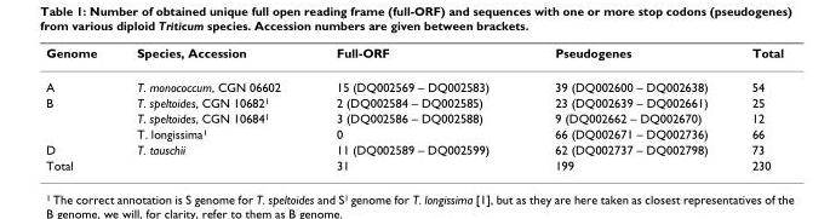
<table><thead><tr><td>Genome</td><td>Species, Accession</td><td>Full-ORF</td><td>Pseudogenes</td><td>Total</td></tr></thead><tbody><tr><td>A</td><td>T. monococcum, CGN 06602</td><td>15 (DQ002569 – DQ002583)</td><td>39 (DQ002600 – DQ002638)</td><td>54</td></tr><tr><td rowspan="3">B</td><td>T. speltoides, CGN 106821</td><td>2 (DQ002584 – DQ002585)</td><td>23 (DQ002639 – DQ002661)</td><td>25</td></tr><tr><td>T. speltoides, CGN 106841</td><td>3 (DQ002586 – DQ002588)</td><td>9 (DQ002662 – DQ002670)</td><td>12</td></tr><tr><td>T. longissima1</td><td>0</td><td>66 (DQ002671 – DQ002736)</td><td>66</td></tr><tr><td>D</td><td>T. tauschii</td><td>11 (DQ002589 – DQ002599)</td><td>62 (DQ002737 – DQ002798)</td><td>73</td></tr><tr><td>Total</td><td></td><td>31</td><td>199</td><td>230</td></tr></tbody></table>